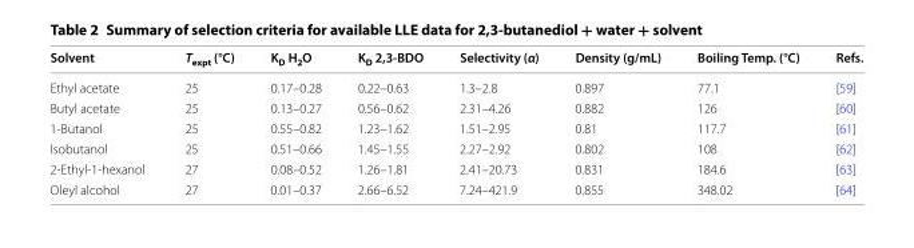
<table><thead><tr><td>Solvent</td><td>T<sub>expt</sub> (°C)</td><td>K<sub>D</sub> H<sub>2</sub>O</td><td>K<sub>D</sub> 2,3-BDO</td><td>Selectivity (α)</td><td>Density (g/mL)</td><td>Boiling Temp. (°C)</td><td>Refs.</td></tr></thead><tbody><tr><td>Ethyl acetate</td><td>25</td><td>0.17–0.28</td><td>0.22–0.63</td><td>1.3–2.8</td><td>0.897</td><td>77.1</td><td>[59]</td></tr><tr><td>Butyl acetate</td><td>25</td><td>0.13–0.27</td><td>0.56–0.62</td><td>2.31–4.26</td><td>0.882</td><td>126</td><td>[60]</td></tr><tr><td>1‑Butanol</td><td>25</td><td>0.55–0.82</td><td>1.23–1.62</td><td>1.51–2.95</td><td>0.81</td><td>117.7</td><td>[61]</td></tr><tr><td>Isobutanol</td><td>25</td><td>0.51–0.66</td><td>1.45–1.55</td><td>2.27–2.92</td><td>0.802</td><td>108</td><td>[62]</td></tr><tr><td>2‑Ethyl‑1‑hexanol</td><td>27</td><td>0.08–0.52</td><td>1.26–1.81</td><td>2.41–20.73</td><td>0.831</td><td>184.6</td><td>[63]</td></tr><tr><td>Oleyl alcohol</td><td>27</td><td>0.01–0.37</td><td>2.66–6.52</td><td>7.24–421.9</td><td>0.855</td><td>348.02</td><td>[64]</td></tr></tbody></table>